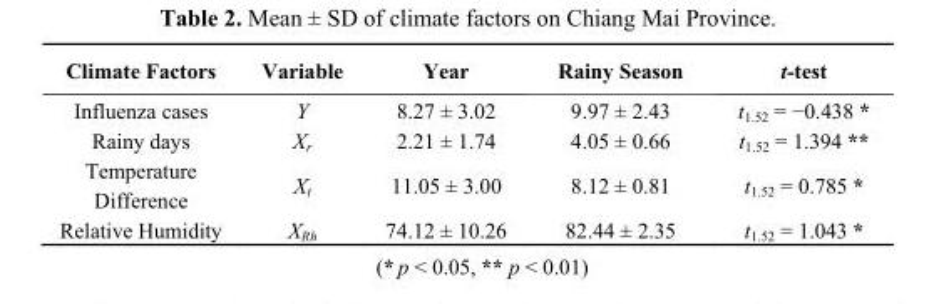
<table><thead><tr><td>Climate Factors</td><td>Variable</td><td>Year</td><td>Rainy Season</td><td>t-test</td></tr></thead><tbody><tr><td>Influenza cases</td><td>Y</td><td>8.27 ± 3.02</td><td>9.97 ± 2.43</td><td>t<sub>1.52</sub> = −0.438 *</td></tr><tr><td>Rainy days</td><td>X<sub>r</sub></td><td>2.21 ± 1.74</td><td>4.05 ± 0.66</td><td>t<sub>1.52</sub> = 1.394 **</td></tr><tr><td>Temperature Difference</td><td>X<sub>t</sub></td><td>11.05 ± 3.00</td><td>8.12 ± 0.81</td><td>t<sub>1.52</sub> = 0.785 *</td></tr><tr><td>Relative Humidity</td><td>X<sub>Rh</sub></td><td>74.12 ± 10.26</td><td>82.44 ± 2.35</td><td>t<sub>1.52</sub> = 1.043 *</td></tr></tbody></table>